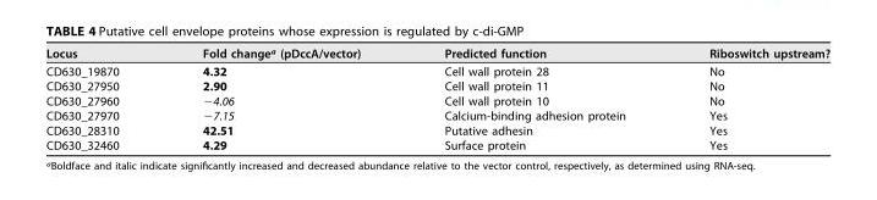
<table><thead><tr><td>Locus</td><td>Fold change<sup>a</sup> (pDccA/vector)</td><td>Predicted function</td><td>Riboswitch upstream?</td></tr></thead><tbody><tr><td>CD630_19870</td><td>4.32</td><td>Cell wall protein 28</td><td>No</td></tr><tr><td>CD630_27950</td><td>2.90</td><td>Cell wall protein 11</td><td>No</td></tr><tr><td>CD630_27960</td><td>−4.06</td><td>Cell wall protein 10</td><td>No</td></tr><tr><td>CD630_27970</td><td>−7.15</td><td>Calcium-binding adhesion protein</td><td>Yes</td></tr><tr><td>CD630_28310</td><td>42.51</td><td>Putative adhesin</td><td>Yes</td></tr><tr><td>CD630_32460</td><td>4.29</td><td>Surface protein</td><td>Yes</td></tr></tbody></table>